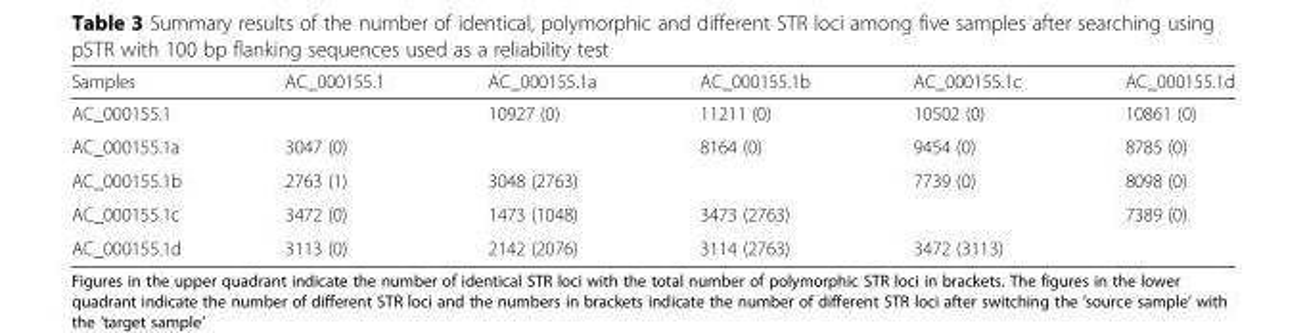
<table><thead><tr><td>Samples</td><td>AC_000155.1</td><td>AC_000155.1a</td><td>AC_000155.1b</td><td>AC_000155.1c</td><td>AC_000155.1d</td></tr></thead><tbody><tr><td>AC_000155.1</td><td></td><td>10927 (0)</td><td>11211 (0)</td><td>10502 (0)</td><td>10861 (0)</td></tr><tr><td>AC_000155.1a</td><td>3047 (0)</td><td></td><td>8164 (0)</td><td>9454 (0)</td><td>8785 (0)</td></tr><tr><td>AC_000155.1b</td><td>2763 (1)</td><td>3048 (2763)</td><td></td><td>7739 (0)</td><td>8098 (0)</td></tr><tr><td>AC_000155.1c</td><td>3472 (0)</td><td>1473 (1048)</td><td>3473 (2763)</td><td></td><td>7389 (0)</td></tr><tr><td>AC_000155.1d</td><td>3113 (0)</td><td>2142 (2076)</td><td>3114 (2763)</td><td>3472 (3113)</td><td></td></tr></tbody></table>